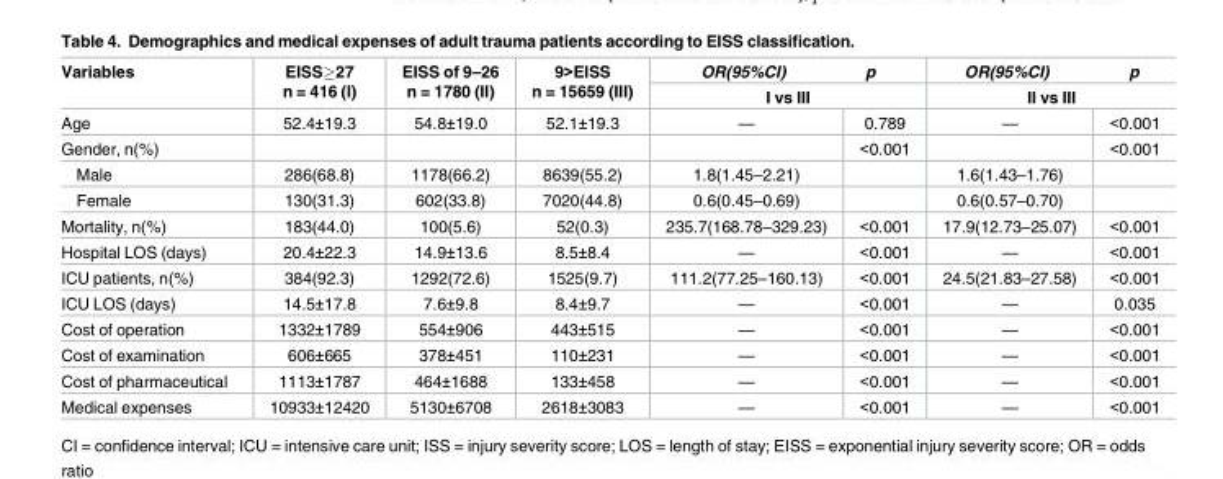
<table><thead><tr><td rowspan="3">Variables Age</td><td rowspan="3">EISS≥27 n = 416 (I) 52.4±19.3</td><td rowspan="3">EISS of 9–26 n = 1780 (II) 54.8±19.0</td><td rowspan="3">9&gt;EISS n = 15659 (III) 52.1±19.3</td><td rowspan="2" colspan="2">OR(95%CI) p I vs III</td><td rowspan="2" colspan="2">OR(95%CI) p II vs III</td></tr><tr></tr><tr><td>—</td><td>0.789</td><td>—</td><td>&lt;0.001</td></tr></thead><tbody><tr><td>Gender, n(%)</td><td></td><td></td><td></td><td></td><td>&lt;0.001</td><td></td><td>&lt;0.001</td></tr><tr><td>Male</td><td>286(68.8)</td><td>1178(66.2)</td><td>8639(55.2)</td><td>1.8(1.45–2.21)</td><td></td><td>1.6(1.43–1.76)</td><td></td></tr><tr><td>Female</td><td>130(31.3)</td><td>602(33.8)</td><td>7020(44.8)</td><td>0.6(0.45–0.69)</td><td></td><td>0.6(0.57–0.70)</td><td></td></tr><tr><td>Mortality, n(%)</td><td>183(44.0)</td><td>100(5.6)</td><td>52(0.3)</td><td>235.7(168.78–329.23)</td><td>&lt;0.001</td><td>17.9(12.73–25.07)</td><td>&lt;0.001</td></tr><tr><td>Hospital LOS (days)</td><td>20.4±22.3</td><td>14.9±13.6</td><td>8.5±8.4</td><td>—</td><td>&lt;0.001</td><td>—</td><td>&lt;0.001</td></tr><tr><td>ICU patients, n(%)</td><td>384(92.3)</td><td>1292(72.6)</td><td>1525(9.7)</td><td>111.2(77.25–160.13)</td><td>&lt;0.001</td><td>24.5(21.83–27.58)</td><td>&lt;0.001</td></tr><tr><td>ICU LOS (days)</td><td>14.5±17.8</td><td>7.6±9.8</td><td>8.4±9.7</td><td>—</td><td>&lt;0.001</td><td>—</td><td>0.035</td></tr><tr><td>Cost of operation</td><td>1332±1789</td><td>554±906</td><td>443±515</td><td>—</td><td>&lt;0.001</td><td>—</td><td>&lt;0.001</td></tr><tr><td>Cost of examination</td><td>606±665</td><td>378±451</td><td>110±231</td><td>—</td><td>&lt;0.001</td><td>—</td><td>&lt;0.001</td></tr><tr><td>Cost of pharmaceutical</td><td>1113±1787</td><td>464±1688</td><td>133±458</td><td>—</td><td>&lt;0.001</td><td>—</td><td>&lt;0.001</td></tr><tr><td>Medical expenses</td><td>10933±12420</td><td>5130±6708</td><td>2618±3083</td><td>—</td><td>&lt;0.001</td><td>—</td><td>&lt;0.001</td></tr></tbody></table>